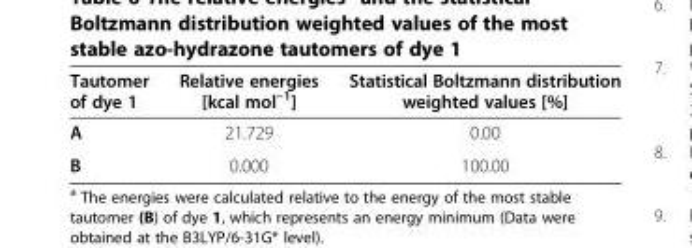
<table><thead><tr><td>Tautomer of dye 1</td><td>Relative energies [kcal mol<sup>–1</sup>]</td><td>Statistical Boltzmann distribution weighted values [%]</td></tr></thead><tbody><tr><td>A</td><td>21.729</td><td>0.00</td></tr><tr><td>B</td><td>0.000</td><td>100.00</td></tr></tbody></table>